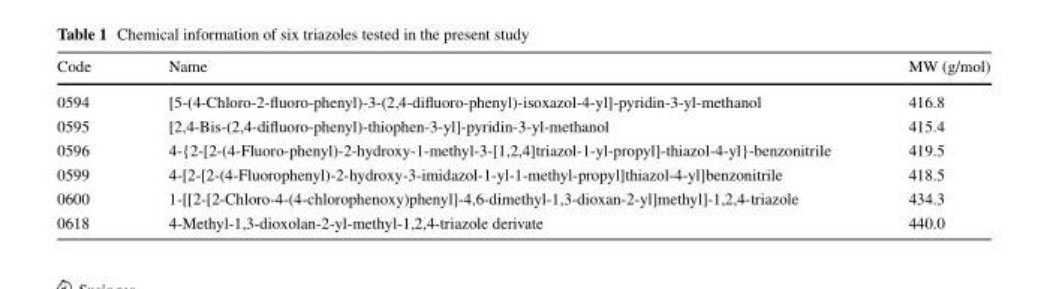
<table><thead><tr><td>Code</td><td>Name</td><td>MW (g/mol)</td></tr></thead><tbody><tr><td>0594</td><td>[5-(4-Chloro-2-fluoro-phenyl)-3-(2,4-difluoro-phenyl)-isoxazol-4-yl]-pyridin-3-yl-methanol</td><td>416.8</td></tr><tr><td>0595</td><td>[2,4-Bis-(2,4-difluoro-phenyl)-thiophen-3-yl]-pyridin-3-yl-methanol</td><td>415.4</td></tr><tr><td>0596</td><td>4-{2-[2-(4-Fluoro-phenyl)-2-hydroxy-1-methyl-3-[1,2,4]triazol-1-yl-propyl]-thiazol-4-yl}-benzonitrile</td><td>419.5</td></tr><tr><td>0599</td><td>4-[2-[2-(4-Fluorophenyl)-2-hydroxy-3-imidazol-1-yl-1-methyl-propyl]thiazol-4-yl]benzonitrile</td><td>418.5</td></tr><tr><td>0600</td><td>1-[[2-[2-Chloro-4-(4-chlorophenoxy)phenyl]-4,6-dimethyl-1,3-dioxan-2-yl]methyl]-1,2,4-triazole</td><td>434.3</td></tr><tr><td>0618</td><td>4-Methyl-1,3-dioxolan-2-yl-methyl-1,2,4-triazole derivate</td><td>440.0</td></tr></tbody></table>